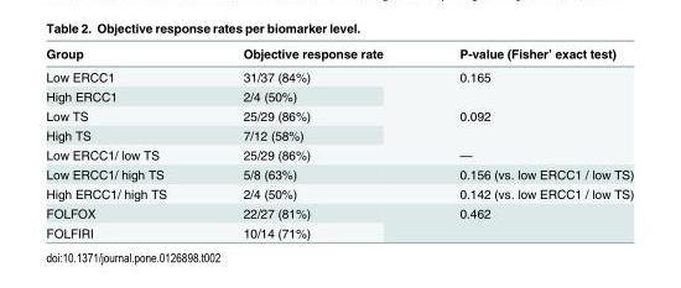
<table><thead><tr><td>Group</td><td>Objective response rate</td><td>P-value (Fisher’ exact test)</td></tr></thead><tbody><tr><td>Low ERCC1</td><td>31/37 (84%)</td><td rowspan="2">0.165</td></tr><tr><td>High ERCC1</td><td>2/4 (50%)</td></tr><tr><td>Low TS</td><td>25/29 (86%)</td><td rowspan="2">0.092</td></tr><tr><td>High TS</td><td>7/12 (58%)</td></tr><tr><td>Low ERCC1/ low TS</td><td>25/29 (86%)</td><td>—</td></tr><tr><td>Low ERCC1/ high TS</td><td>5/8 (63%)</td><td>0.156 (vs. low ERCC1 / low TS)</td></tr><tr><td>High ERCC1/ high TS</td><td>2/4 (50%)</td><td>0.142 (vs. low ERCC1 / low TS)</td></tr><tr><td>FOLFOX</td><td>22/27 (81%)</td><td rowspan="2">0.462</td></tr><tr><td>FOLFIRI</td><td>10/14 (71%)</td></tr></tbody></table>